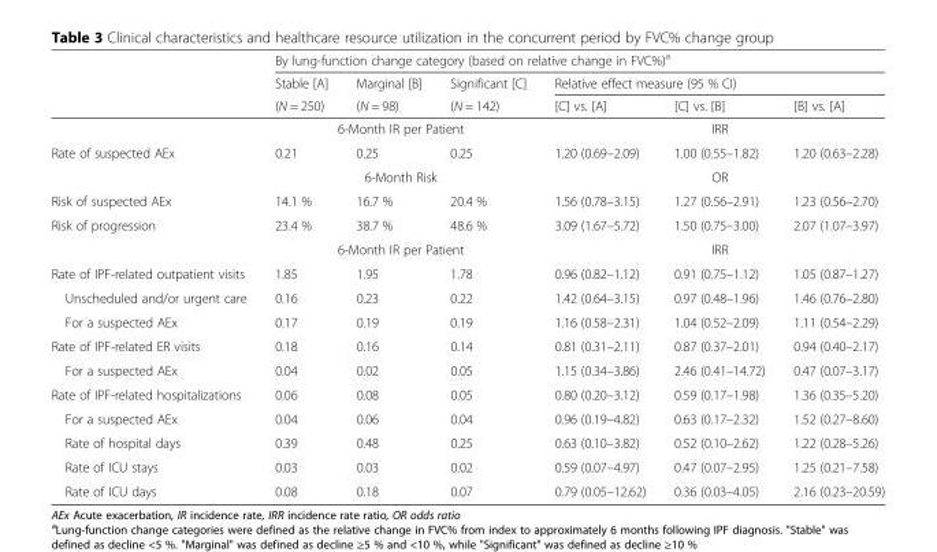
<table><thead><tr><td rowspan="3"></td><td colspan="6">By lung-function change category (based on relative change in FVC%)<sup>a</sup></td></tr><tr><td rowspan="2">Stable [A] (N = 250)</td><td rowspan="2">Marginal [B] (N = 98)</td><td rowspan="2">Significant [C] (N = 142)</td><td colspan="3">Relative effect measure (95 % CI)</td></tr><tr><td>[C] vs. [A]</td><td>[C] vs. [B]</td><td>[B] vs. [A]</td></tr></thead><tbody><tr><td></td><td colspan="3">6-Month IR per Patient</td><td colspan="3">IRR</td></tr><tr><td rowspan="2">Rate of suspected AEx</td><td>0.21</td><td>0.25</td><td>0.25</td><td>1.20 (0.69–2.09)</td><td>1.00 (0.55–1.82)</td><td>1.20 (0.63–2.28)</td></tr><tr><td colspan="3">6-Month Risk</td><td colspan="3">OR</td></tr><tr><td>Risk of suspected AEx</td><td>14.1 %</td><td>16.7 %</td><td>20.4 %</td><td>1.56 (0.78–3.15)</td><td>1.27 (0.56–2.91)</td><td>1.23 (0.56–2.70)</td></tr><tr><td rowspan="2">Risk of progression</td><td>23.4 %</td><td>38.7 %</td><td>48.6 %</td><td>3.09 (1.67–5.72)</td><td>1.50 (0.75–3.00)</td><td>2.07 (1.07–3.97)</td></tr><tr><td colspan="3">6-Month IR per Patient</td><td colspan="3">IRR</td></tr><tr><td>Rate of IPF-related outpatient visits</td><td>1.85</td><td>1.95</td><td>1.78</td><td>0.96 (0.82–1.12)</td><td>0.91 (0.75–1.12)</td><td>1.05 (0.87–1.27)</td></tr><tr><td>Unscheduled and/or urgent care</td><td>0.16</td><td>0.23</td><td>0.22</td><td>1.42 (0.64–3.15)</td><td>0.97 (0.48–1.96)</td><td>1.46 (0.76–2.80)</td></tr><tr><td>For a suspected AEx</td><td>0.17</td><td>0.19</td><td>0.19</td><td>1.16 (0.58–2.31)</td><td>1.04 (0.52–2.09)</td><td>1.11 (0.54–2.29)</td></tr><tr><td>Rate of IPF-related ER visits</td><td>0.18</td><td>0.16</td><td>0.14</td><td>0.81 (0.31–2.11)</td><td>0.87 (0.37–2.01)</td><td>0.94 (0.40–2.17)</td></tr><tr><td>For a suspected AEx</td><td>0.04</td><td>0.02</td><td>0.05</td><td>1.15 (0.34–3.86)</td><td>2.46 (0.41–14.72)</td><td>0.47 (0.07–3.17)</td></tr><tr><td>Rate of IPF-related hospitalizations</td><td>0.06</td><td>0.08</td><td>0.05</td><td>0.80 (0.20–3.12)</td><td>0.59 (0.17–1.98)</td><td>1.36 (0.35–5.20)</td></tr><tr><td>For a suspected AEx</td><td>0.04</td><td>0.06</td><td>0.04</td><td>0.96 (0.19–4.82)</td><td>0.63 (0.17–2.32)</td><td>1.52 (0.27–8.60)</td></tr><tr><td>Rate of hospital days</td><td>0.39</td><td>0.48</td><td>0.25</td><td>0.63 (0.10–3.82)</td><td>0.52 (0.10–2.62)</td><td>1.22 (0.28–5.26)</td></tr><tr><td>Rate of ICU stays</td><td>0.03</td><td>0.03</td><td>0.02</td><td>0.59 (0.07–4.97)</td><td>0.47 (0.07–2.95)</td><td>1.25 (0.21–7.58)</td></tr><tr><td>Rate of ICU days</td><td>0.08</td><td>0.18</td><td>0.07</td><td>0.79 (0.05–12.62)</td><td>0.36 (0.03–4.05)</td><td>2.16 (0.23–20.59)</td></tr></tbody></table>